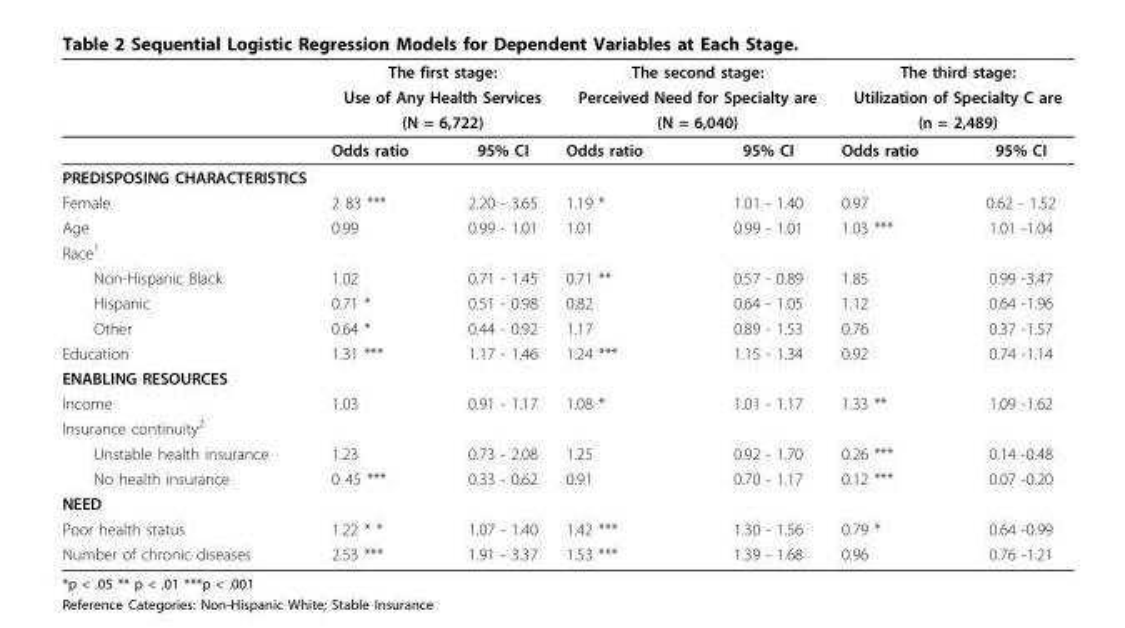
<table><thead><tr><td rowspan="4"></td><td rowspan="3" colspan="2">The first stage: Use of Any Health Services (N = 6,722)</td><td rowspan="3" colspan="2">The second stage: Perceived Need for Specialty are (N = 6,040)</td><td rowspan="3" colspan="2">The third stage: Utilization of Specialty C are (n = 2,489)</td></tr><tr></tr><tr></tr><tr><td>Odds ratio</td><td>95% CI</td><td>Odds ratio</td><td>95% CI</td><td>Odds ratio</td><td>95% CI</td></tr></thead><tbody><tr><td colspan="7">PREDISPOSING CHARACTERISTICS</td></tr><tr><td>Female</td><td>2 83 ***</td><td>2.20 - 3.65</td><td>1.19 *</td><td>1.01 - 1.40</td><td>0.97</td><td>0.62 - 1.52</td></tr><tr><td>Age</td><td>0.99</td><td>0.99 - 1.01</td><td>1.01</td><td>0.99 - 1.01</td><td>1.03 ***</td><td>1.01 -1.04</td></tr><tr><td colspan="7">Race<sup>1</sup></td></tr><tr><td>Non-Hispanic Black</td><td>1.02</td><td>0.71 - 1.45</td><td>0.71 **</td><td>0.57 - 0.89</td><td>1.85</td><td>0.99 -3.47</td></tr><tr><td>Hispanic</td><td>0.71 *</td><td>0.51 - 0.98</td><td>0.82</td><td>0.64 - 1.05</td><td>1.12</td><td>0.64 -1.96</td></tr><tr><td>Other</td><td>0.64 *</td><td>0.44 - 0.92</td><td>1.17</td><td>0.89 - 1.53</td><td>0.76</td><td>0.37 -1.57</td></tr><tr><td>Education</td><td>1.31 ***</td><td>1.17 - 1.46</td><td>1.24 ***</td><td>1.15 - 1.34</td><td>0.92</td><td>0.74 -1.14</td></tr><tr><td colspan="7">ENABLING RESOURCES</td></tr><tr><td>Income</td><td>1.03</td><td>0.91 - 1.17</td><td>1.08 *</td><td>1.01 - 1.17</td><td>1.33 **</td><td>1.09 -1.62</td></tr><tr><td colspan="7">Insurance continuity<sup>2</sup></td></tr><tr><td>Unstable health insurance</td><td>1.23</td><td>0.73 - 2.08</td><td>1.25</td><td>0.92 - 1.70</td><td>0.26 ***</td><td>0.14 -0.48</td></tr><tr><td>No health insurance</td><td>0 45 ***</td><td>0.33 - 0.62</td><td>0.91</td><td>0.70 - 1.17</td><td>0.12 ***</td><td>0.07 -0.20</td></tr><tr><td colspan="7">NEED</td></tr><tr><td>Poor health status</td><td>1.22 * *</td><td>1.07 - 1.40</td><td>1.42 ***</td><td>1.30 - 1.56</td><td>0.79 *</td><td>0.64 -0.99</td></tr><tr><td>Number of chronic diseases</td><td>2.53 ***</td><td>1.91 - 3.37</td><td>1.53 ***</td><td>1.39 - 1.68</td><td>0.96</td><td>0.76 -1.21</td></tr></tbody></table>